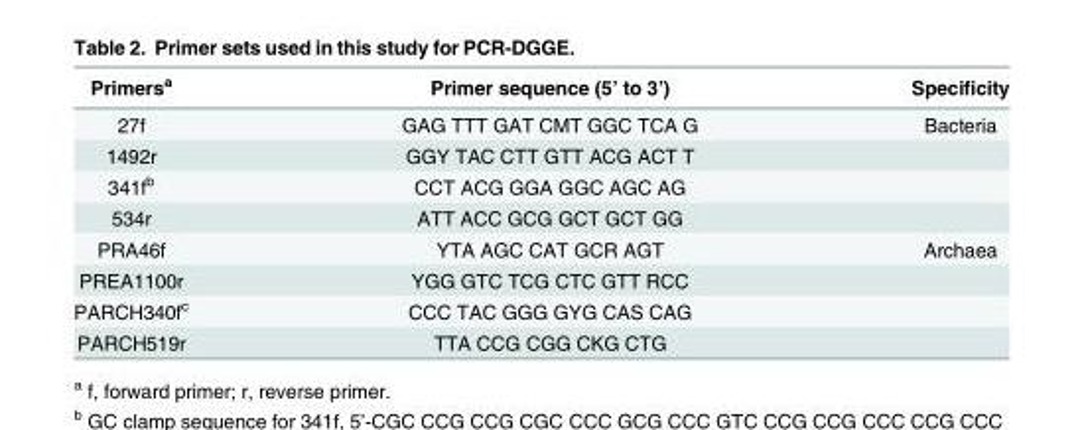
<table><thead><tr><td>Primers<sup>a</sup></td><td>Primer sequence (5’ to 3’)</td><td>Specificity</td></tr></thead><tbody><tr><td>27f</td><td>GAG TTT GAT CMT GGC TCA G</td><td>Bacteria</td></tr><tr><td>1492r</td><td>GGY TAC CTT GTT ACG ACT T</td><td></td></tr><tr><td>341f<sup>b</sup></td><td>CCT ACG GGA GGC AGC AG</td><td></td></tr><tr><td>534r</td><td>ATT ACC GCG GCT GCT GG</td><td></td></tr><tr><td>PRA46f</td><td>YTA AGC CAT GCR AGT</td><td>Archaea</td></tr><tr><td>PREA1100r</td><td>YGG GTC TCG CTC GTT RCC</td><td></td></tr><tr><td>PARCH340f<sup>c</sup></td><td>CCC TAC GGG GYG CAS CAG</td><td></td></tr><tr><td>PARCH519r</td><td>TTA CCG CGG CKG CTG</td><td></td></tr></tbody></table>